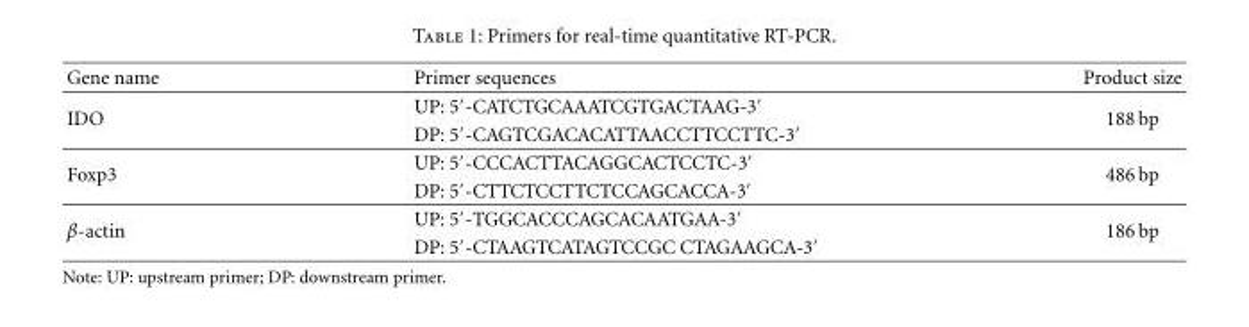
<table><thead><tr><td>Gene name</td><td>Primer sequences</td><td>Product size</td></tr></thead><tbody><tr><td rowspan="2">IDO</td><td>UP: 5′-CATCTGCAAATCGTGACTAAG-3′</td><td rowspan="2">188 bp</td></tr><tr><td>DP: 5′-CAGTCGACACATTAACCTTCCTTC-3′</td></tr><tr><td rowspan="2">Foxp3</td><td>UP: 5′-CCCACTTACAGGCACTCCTC-3′</td><td rowspan="2">486 bp</td></tr><tr><td>DP: 5′-CTTCTCCTTCTCCAGCACCA-3′</td></tr><tr><td rowspan="2">β-actin</td><td>UP: 5′-TGGCACCCAGCACAATGAA-3′</td><td rowspan="2">186 bp</td></tr><tr><td>DP: 5′-CTAAGTCATAGTCCGC CTAGAAGCA-3′</td></tr></tbody></table>